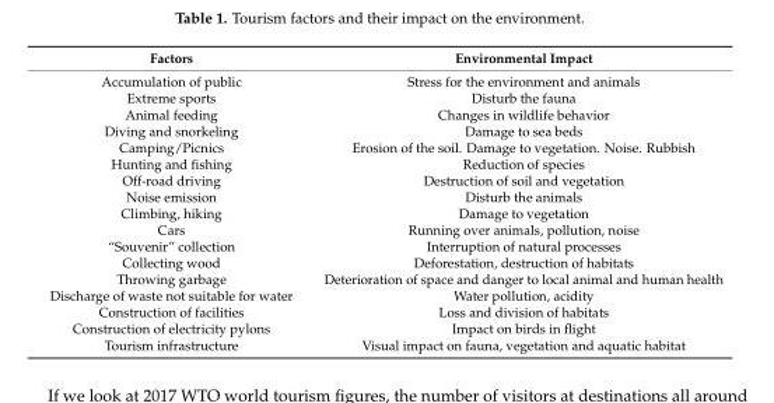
<table><thead><tr><td>Factors</td><td>Environmental Impact</td></tr></thead><tbody><tr><td>Accumulation of public</td><td>Stress for the environment and animals</td></tr><tr><td>Extreme sports</td><td>Disturb the fauna</td></tr><tr><td>Animal feeding</td><td>Changes in wildlife behavior</td></tr><tr><td>Diving and snorkeling</td><td>Damage to sea beds</td></tr><tr><td>Camping/Picnics</td><td>Erosion of the soil. Damage to vegetation. Noise. Rubbish</td></tr><tr><td>Hunting and fishing</td><td>Reduction of species</td></tr><tr><td>Off-road driving</td><td>Destruction of soil and vegetation</td></tr><tr><td>Noise emission</td><td>Disturb the animals</td></tr><tr><td>Climbing, hiking</td><td>Damage to vegetation</td></tr><tr><td>Cars</td><td>Running over animals, pollution, noise</td></tr><tr><td>“Souvenir” collection</td><td>Interruption of natural processes</td></tr><tr><td>Collecting wood</td><td>Deforestation, destruction of habitats</td></tr><tr><td>Throwing garbage</td><td>Deterioration of space and danger to local animal and human health</td></tr><tr><td>Discharge of waste not suitable for water</td><td>Water pollution, acidity</td></tr><tr><td>Construction of facilities</td><td>Loss and division of habitats</td></tr><tr><td>Construction of electricity pylons</td><td>Impact on birds in flight</td></tr><tr><td>Tourism infrastructure</td><td>Visual impact on fauna, vegetation and aquatic habitat</td></tr></tbody></table>